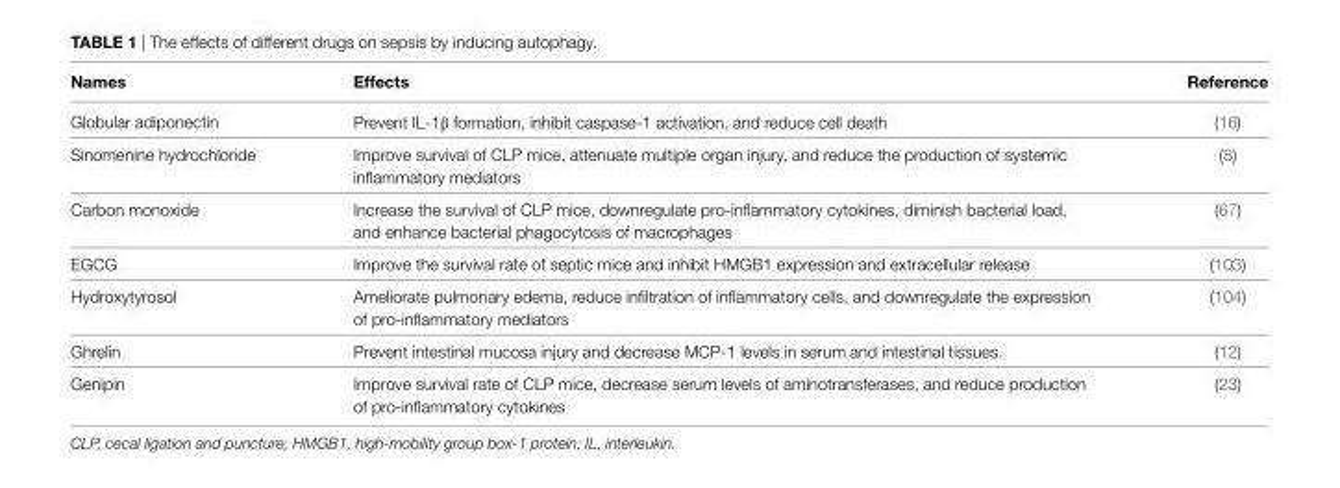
<table><thead><tr><td>Names</td><td>effects</td><td>Reference</td></tr></thead><tbody><tr><td>Globular adiponectin</td><td>Prevent IL1β formation, inhibit caspase1 activation, and reduce cell death</td><td>(16)</td></tr><tr><td>Sinomenine hydrochloride</td><td>Improve survival of CLP mice, attenuate multiple organ injury, and reduce the production of systemic inflammatory mediators</td><td>(8)</td></tr><tr><td>Carbon monoxide</td><td>Increase the survival of CLP mice, downregulate proinflammatory cytokines, diminish bacterial load, and enhance bacterial phagocytosis of macrophages</td><td>(67)</td></tr><tr><td>EGCG</td><td>Improve the survival rate of septic mice and inhibit HMGB1 expression and extracellular release</td><td>(103)</td></tr><tr><td>Hydroxytyrosol</td><td>Ameliorate pulmonary edema, reduce infiltration of inflammatory cells, and downregulate the expression of proinflammatory mediators</td><td>(104)</td></tr><tr><td>Ghrelin</td><td>Prevent intestinal mucosa injury and decrease MCP1 levels in serum and intestinal tissues.</td><td>(12)</td></tr><tr><td>Genipin</td><td>Improve survival rate of CLP mice, decrease serum levels of aminotransferases, and reduce production of proinflammatory cytokines</td><td>(23)</td></tr></tbody></table>